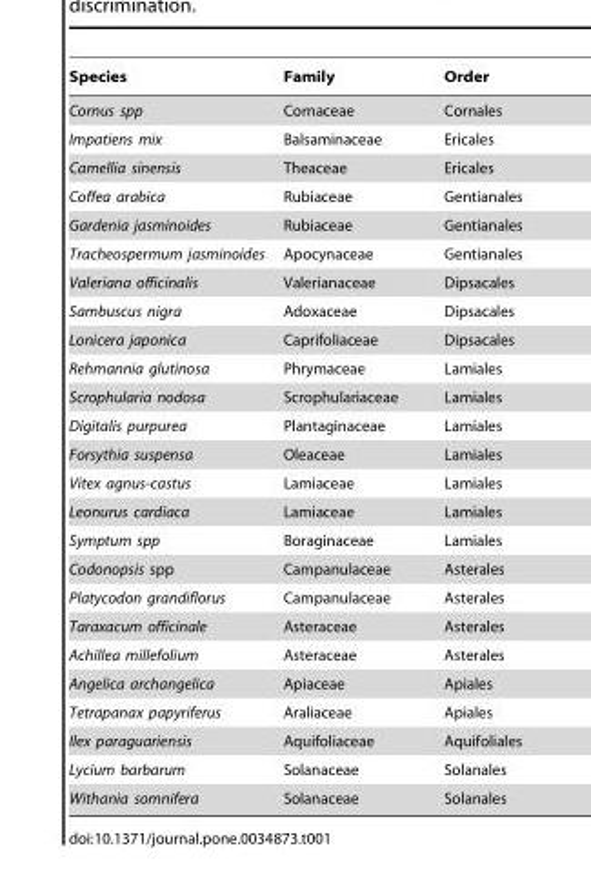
<table><thead><tr><td>Species</td><td>Family</td><td>Order</td></tr></thead><tbody><tr><td>Cornus spp</td><td>Cornaceae</td><td>Cornales</td></tr><tr><td>Impatiens mix</td><td>Balsaminaceae</td><td>Ericales</td></tr><tr><td>Camellia sinensis</td><td>Theaceae</td><td>Ericales</td></tr><tr><td>Coffea arabica</td><td>Rubiaceae</td><td>Gentianales</td></tr><tr><td>Gardenia jasminoides</td><td>Rubiaceae</td><td>Gentianales</td></tr><tr><td>Tracheospermum jasminoides</td><td>Apocynaceae</td><td>Gentianales</td></tr><tr><td>Valeriana officinalis</td><td>Valerianaceae</td><td>Dipsacales</td></tr><tr><td>Sambuscus nigra</td><td>Adoxaceae</td><td>Dipsacales</td></tr><tr><td>Lonicera japonica</td><td>Caprifoliaceae</td><td>Dipsacales</td></tr><tr><td>Rehmannia glutinosa</td><td>Phrymaceae</td><td>Lamiales</td></tr><tr><td>Scrophularia nodosa</td><td>Scrophulariaceae</td><td>Lamiales</td></tr><tr><td>Digitalis purpurea</td><td>Plantaginaceae</td><td>Lamiales</td></tr><tr><td>Forsythia suspensa</td><td>Oleaceae</td><td>Lamiales</td></tr><tr><td>Vitex agnus-castus</td><td>Lamiaceae</td><td>Lamiales</td></tr><tr><td>Leonurus cardiaca</td><td>Lamiaceae</td><td>Lamiales</td></tr><tr><td>Symptum spp</td><td>Boraginaceae</td><td>Lamiales</td></tr><tr><td>Codonopsis spp</td><td>Campanulaceae</td><td>Asterales</td></tr><tr><td>Platycodon grandiflorus</td><td>Campanulaceae</td><td>Asterales</td></tr><tr><td>Taraxacum officinale</td><td>Asteraceae</td><td>Asterales</td></tr><tr><td>Achillea millefolium</td><td>Asteraceae</td><td>Asterales</td></tr><tr><td>Angelica archangelica</td><td>Apiaceae</td><td>Apiales</td></tr><tr><td>Tetrapanax papyriferus</td><td>Araliaceae</td><td>Apiales</td></tr><tr><td>Ilex paraguariensis</td><td>Aquifoliaceae</td><td>Aquifoliales</td></tr><tr><td>Lycium barbarum</td><td>Solanaceae</td><td>Solanales</td></tr><tr><td>Withania somnifera</td><td>Solanaceae</td><td>Solanales</td></tr></tbody></table>